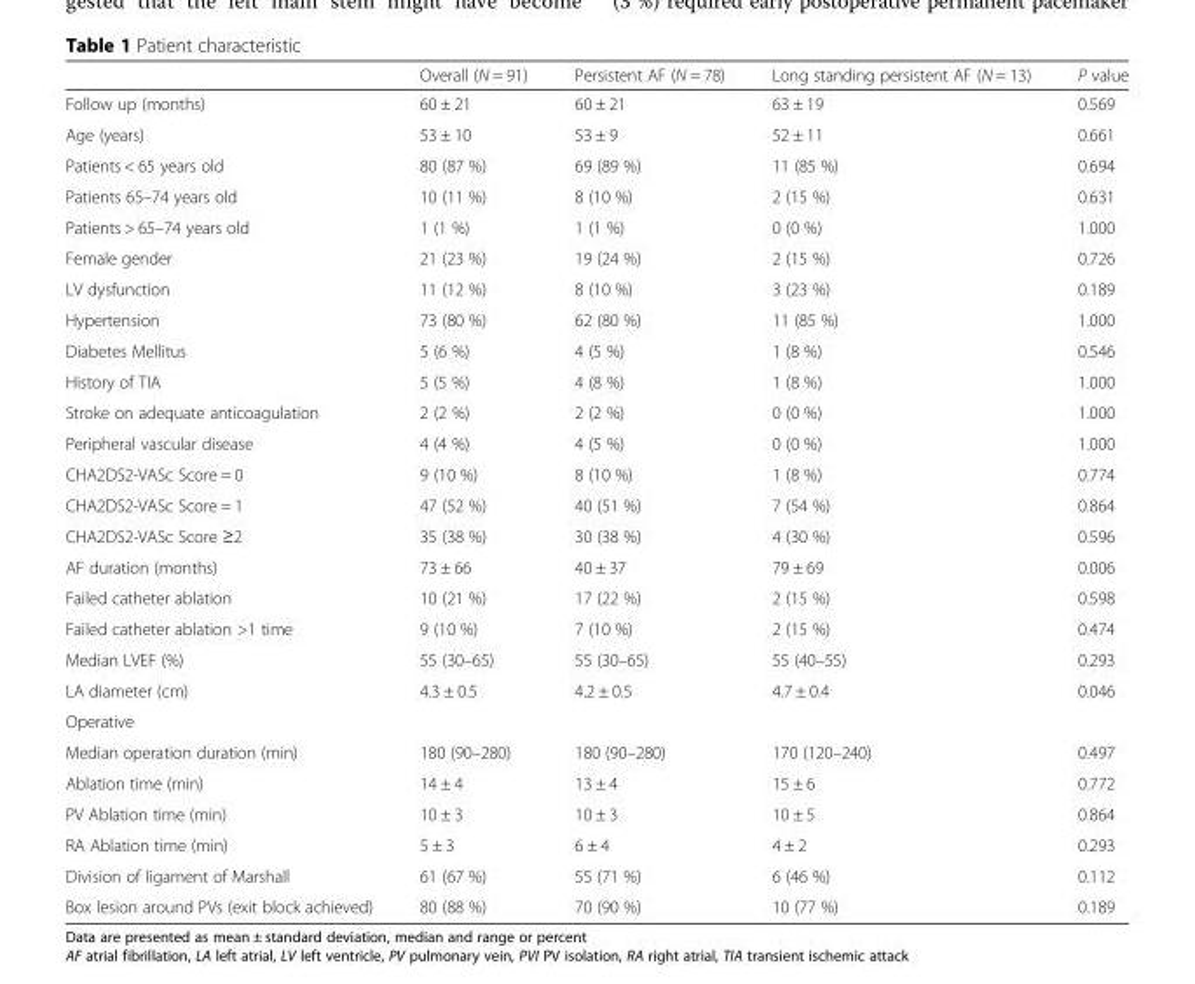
<table><thead><tr><td></td><td>Overall (N = 91)</td><td>Persistent AF (N = 78)</td><td>Long standing persistent AF (N = 13)</td><td>P value</td></tr></thead><tbody><tr><td>Follow up (months)</td><td>60 ± 21</td><td>60 ± 21</td><td>63 ± 19</td><td>0.569</td></tr><tr><td>Age (years)</td><td>53 ± 10</td><td>53 ± 9</td><td>52 ± 11</td><td>0.661</td></tr><tr><td>Patients &lt; 65 years old</td><td>80 (87 %)</td><td>69 (89 %)</td><td>11 (85 %)</td><td>0.694</td></tr><tr><td>Patients 65–74 years old</td><td>10 (11 %)</td><td>8 (10 %)</td><td>2 (15 %)</td><td>0.631</td></tr><tr><td>Patients &gt; 65–74 years old</td><td>1 (1 %)</td><td>1 (1 %)</td><td>0 (0 %)</td><td>1.000</td></tr><tr><td>Female gender</td><td>21 (23 %)</td><td>19 (24 %)</td><td>2 (15 %)</td><td>0.726</td></tr><tr><td>LV dysfunction</td><td>11 (12 %)</td><td>8 (10 %)</td><td>3 (23 %)</td><td>0.189</td></tr><tr><td>Hypertension</td><td>73 (80 %)</td><td>62 (80 %)</td><td>11 (85 %)</td><td>1.000</td></tr><tr><td>Diabetes Mellitus</td><td>5 (6 %)</td><td>4 (5 %)</td><td>1 (8 %)</td><td>0.546</td></tr><tr><td>History of TIA</td><td>5 (5 %)</td><td>4 (8 %)</td><td>1 (8 %)</td><td>1.000</td></tr><tr><td>Stroke on adequate anticoagulation</td><td>2 (2 %)</td><td>2 (2 %)</td><td>0 (0 %)</td><td>1.000</td></tr><tr><td>Peripheral vascular disease</td><td>4 (4 %)</td><td>4 (5 %)</td><td>0 (0 %)</td><td>1.000</td></tr><tr><td>CHA2DS2-VASc Score = 0</td><td>9 (10 %)</td><td>8 (10 %)</td><td>1 (8 %)</td><td>0.774</td></tr><tr><td>CHA2DS2-VASc Score = 1</td><td>47 (52 %)</td><td>40 (51 %)</td><td>7 (54 %)</td><td>0.864</td></tr><tr><td>CHA2DS2-VASc Score ≥2</td><td>35 (38 %)</td><td>30 (38 %)</td><td>4 (30 %)</td><td>0.596</td></tr><tr><td>AF duration (months)</td><td>73 ± 66</td><td>40 ± 37</td><td>79 ± 69</td><td>0.006</td></tr><tr><td>Failed catheter ablation</td><td>10 (21 %)</td><td>17 (22 %)</td><td>2 (15 %)</td><td>0.598</td></tr><tr><td>Failed catheter ablation &gt;1 time</td><td>9 (10 %)</td><td>7 (10 %)</td><td>2 (15 %)</td><td>0.474</td></tr><tr><td>Median LVEF (%)</td><td>55 (30–65)</td><td>55 (30–65)</td><td>55 (40–55)</td><td>0.293</td></tr><tr><td>LA diameter (cm)</td><td>4.3 ± 0.5</td><td>4.2 ± 0.5</td><td>4.7 ± 0.4</td><td>0.046</td></tr><tr><td colspan="5">Operative</td></tr><tr><td>Median operation duration (min)</td><td>180 (90–280)</td><td>180 (90–280)</td><td>170 (120–240)</td><td>0.497</td></tr><tr><td>Ablation time (min)</td><td>14 ± 4</td><td>13 ± 4</td><td>15 ± 6</td><td>0.772</td></tr><tr><td>PV Ablation time (min)</td><td>10 ± 3</td><td>10 ± 3</td><td>10 ± 5</td><td>0.864</td></tr><tr><td>RA Ablation time (min)</td><td>5 ± 3</td><td>6 ± 4</td><td>4 ± 2</td><td>0.293</td></tr><tr><td>Division of ligament of Marshall</td><td>61 (67 %)</td><td>55 (71 %)</td><td>6 (46 %)</td><td>0.112</td></tr><tr><td>Box lesion around PVs (exit block achieved)</td><td>80 (88 %)</td><td>70 (90 %)</td><td>10 (77 %)</td><td>0.189</td></tr></tbody></table>